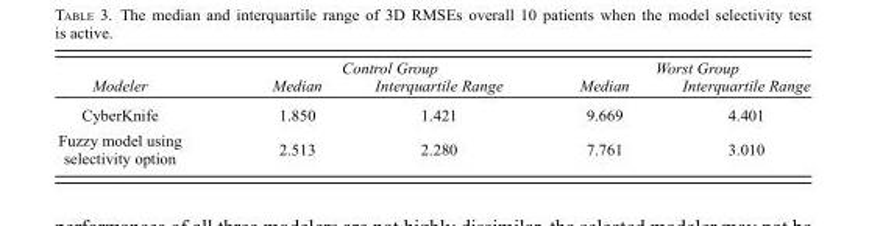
<table><thead><tr><td rowspan="2">Modeler</td><td colspan="2">Control Group</td><td colspan="2">Worst Group</td></tr><tr><td>Median</td><td>Interquartile Range</td><td>Median</td><td>Interquartile Range</td></tr></thead><tbody><tr><td>CyberKnife</td><td>1.850</td><td>1.421</td><td>9.669</td><td>4.401</td></tr><tr><td>Fuzzy model using selectivity option</td><td>2.513</td><td>2.280</td><td>7.761</td><td>3.010</td></tr></tbody></table>